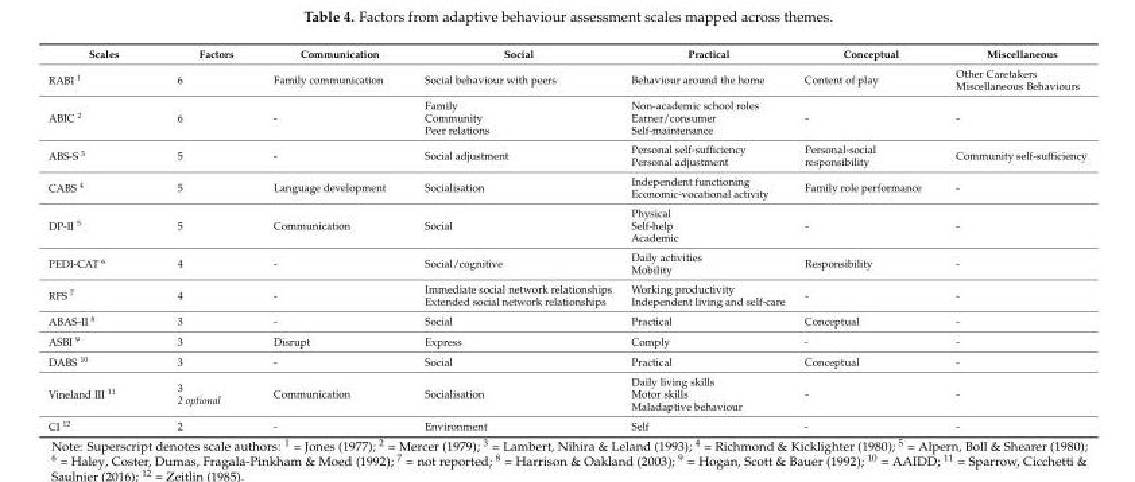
<table><thead><tr><td>Scales</td><td>Factors</td><td>Communication</td><td>Social</td><td>Practical</td><td>Conceptual</td><td>Miscellaneous</td></tr></thead><tbody><tr><td>RABI <sup>1</sup></td><td>6</td><td>Family communication</td><td>Social behaviour with peers</td><td>Behaviour around the home</td><td>Content of play</td><td>Other Caretakers Miscellaneous Behaviours</td></tr><tr><td>ABIC <sup>2</sup></td><td>6</td><td>-</td><td>Family Community Peer relations</td><td>Non-academic school roles Earner/consumer Self-maintenance</td><td>-</td><td>-</td></tr><tr><td>ABS-S <sup>3</sup></td><td>5</td><td>-</td><td>Social adjustment</td><td>Personal self-sufficiency Personal adjustment</td><td>Personal-social responsibility</td><td>Community self-sufficiency</td></tr><tr><td>CABS <sup>4</sup></td><td>5</td><td>Language development</td><td>Socialisation</td><td>Independent functioning Economic-vocational activity</td><td>Family role performance</td><td>-</td></tr><tr><td>DP-II <sup>5</sup></td><td>5</td><td>Communication</td><td>Social</td><td>Physical Self-help Academic</td><td>-</td><td>-</td></tr><tr><td>PEDI-CAT <sup>6</sup></td><td>4</td><td>-</td><td>Social/cognitive</td><td>Daily activities Mobility</td><td>Responsibility</td><td>-</td></tr><tr><td>RFS <sup>7</sup></td><td>4</td><td>-</td><td>Immediate social network relationships Extended social network relationships</td><td>Working productivity Independent living and self-care</td><td>-</td><td>-</td></tr><tr><td>ABAS-II <sup>8</sup></td><td>3</td><td>-</td><td>Social</td><td>Practical</td><td>Conceptual</td><td>-</td></tr><tr><td>ASBI <sup>9</sup></td><td>3</td><td>Disrupt</td><td>Express</td><td>Comply</td><td>-</td><td>-</td></tr><tr><td>DABS <sup>10</sup></td><td>3</td><td>-</td><td>Social</td><td>Practical</td><td>Conceptual</td><td>-</td></tr><tr><td>Vineland III <sup>11</sup></td><td>3 2 optional</td><td>Communication</td><td>Socialisation</td><td>Daily living skills Motor skills Maladaptive behaviour</td><td>-</td><td>-</td></tr><tr><td>CI <sup>12</sup></td><td>2</td><td>-</td><td>Environment</td><td>Self</td><td>-</td><td>-</td></tr></tbody></table>